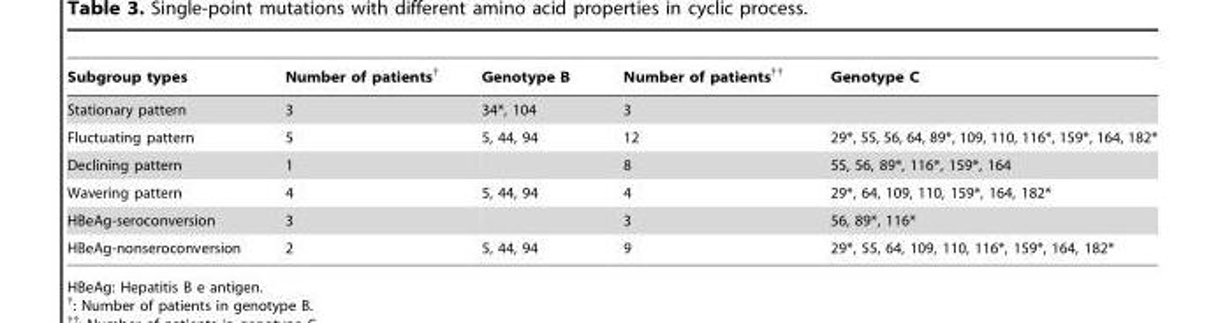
<table><thead><tr><td>Subgroup types</td><td>Number of patients†</td><td>Genotype B</td><td>Number of patients††</td><td>Genotype C</td></tr></thead><tbody><tr><td>Stationary pattern</td><td>3</td><td>34*, 104</td><td>3</td><td></td></tr><tr><td>Fluctuating pattern</td><td>5</td><td>5, 44, 94</td><td>12</td><td>29*, 55, 56, 64, 89*, 109, 110, 116*, 159*, 164, 182*</td></tr><tr><td>Declining pattern</td><td>1</td><td></td><td>8</td><td>55, 56, 89*, 116*, 159*, 164</td></tr><tr><td>Wavering pattern</td><td>4</td><td>5, 44, 94</td><td>4</td><td>29*, 64, 109, 110, 159*, 164, 182*</td></tr><tr><td>HBeAg-seroconversion</td><td>3</td><td></td><td>3</td><td>56, 89*, 116*</td></tr><tr><td>HBeAg-nonseroconversion</td><td>2</td><td>5, 44, 94</td><td>9</td><td>29*, 55, 64, 109, 110, 116*, 159*, 164, 182*</td></tr></tbody></table>